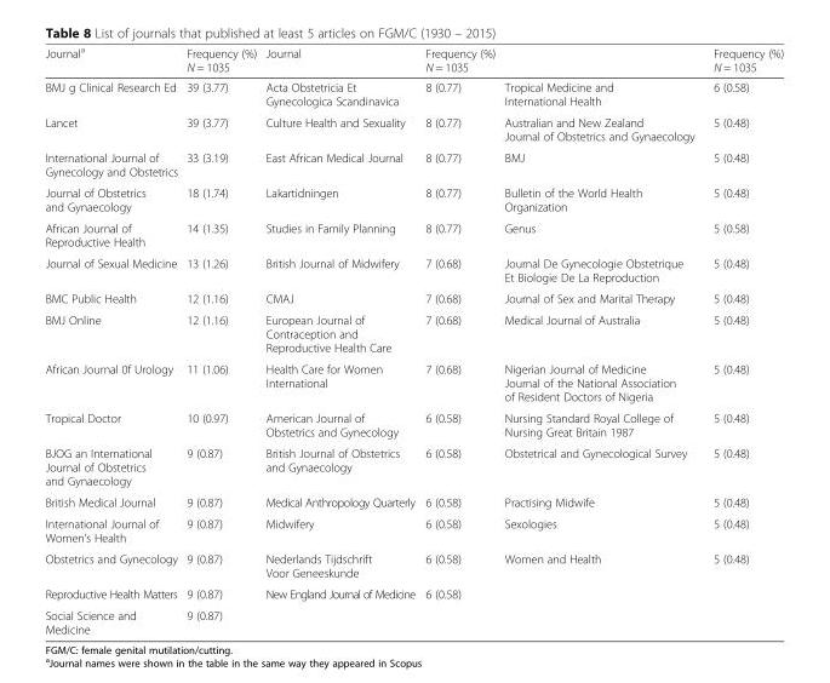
<table><thead><tr><td>Journal<sup>a</sup></td><td>Frequency (%) N = 1035</td><td>Journal</td><td>Frequency (%) N = 1035</td><td></td><td>Frequency (%) N = 1035</td></tr></thead><tbody><tr><td>BMJ g Clinical Research Ed</td><td>39 (3.77)</td><td>Acta Obstetricia Et Gynecologica Scandinavica</td><td>8 (0.77)</td><td>Tropical Medicine and International Health</td><td>6 (0.58)</td></tr><tr><td>Lancet</td><td>39 (3.77)</td><td>Culture Health and Sexuality</td><td>8 (0.77)</td><td>Australian and New Zealand Journal of Obstetrics and Gynaecology</td><td>5 (0.48)</td></tr><tr><td>International Journal of Gynecology and Obstetrics</td><td>33 (3.19)</td><td>East African Medical Journal</td><td>8 (0.77)</td><td>BMJ</td><td>5 (0.48)</td></tr><tr><td>Journal of Obstetrics and Gynaecology</td><td>18 (1.74)</td><td>Lakartidningen</td><td>8 (0.77)</td><td>Bulletin of the World Health Organization</td><td>5 (0.48)</td></tr><tr><td>African Journal of Reproductive Health</td><td>14 (1.35)</td><td>Studies in Family Planning</td><td>8 (0.77)</td><td>Genus</td><td>5 (0.58)</td></tr><tr><td>Journal of Sexual Medicine</td><td>13 (1.26)</td><td>British Journal of Midwifery</td><td>7 (0.68)</td><td>Journal De Gynecologie Obstetrique Et Biologie De La Reproduction</td><td>5 (0.48)</td></tr><tr><td>BMC Public Health</td><td>12 (1.16)</td><td>CMAJ</td><td>7 (0.68)</td><td>Journal of Sex and Marital Therapy</td><td>5 (0.48)</td></tr><tr><td>BMJ Online</td><td>12 (1.16)</td><td>European Journal of Contraception and Reproductive Health Care</td><td>7 (0.68)</td><td>Medical Journal of Australia</td><td>5 (0.48)</td></tr><tr><td>African Journal 0f Urology</td><td>11 (1.06)</td><td>Health Care for Women International</td><td>7 (0.68)</td><td>Nigerian Journal of Medicine Journal of the National Association of Resident Doctors of Nigeria</td><td>5 (0.48)</td></tr><tr><td>Tropical Doctor</td><td>10 (0.97)</td><td>American Journal of Obstetrics and Gynecology</td><td>6 (0.58)</td><td>Nursing Standard Royal College of Nursing Great Britain 1987</td><td>5 (0.48)</td></tr><tr><td>BJOG an International Journal of Obstetrics and Gynaecology</td><td>9 (0.87)</td><td>British Journal of Obstetrics and Gynaecology</td><td>6 (0.58)</td><td>Obstetrical and Gynecological Survey</td><td>5 (0.48)</td></tr><tr><td>British Medical Journal</td><td>9 (0.87)</td><td>Medical Anthropology Quarterly</td><td>6 (0.58)</td><td>Practising Midwife</td><td>5 (0.48)</td></tr><tr><td>International Journal of Women’s Health</td><td>9 (0.87)</td><td>Midwifery</td><td>6 (0.58)</td><td>Sexologies</td><td>5 (0.48)</td></tr><tr><td>Obstetrics and Gynecology</td><td>9 (0.87)</td><td>Nederlands Tijdschrift Voor Geneeskunde</td><td>6 (0.58)</td><td>Women and Health</td><td>5 (0.48)</td></tr><tr><td>Reproductive Health Matters</td><td>9 (0.87)</td><td>New England Journal of Medicine</td><td>6 (0.58)</td><td></td><td></td></tr><tr><td>Social Science and Medicine</td><td>9 (0.87)</td><td></td><td></td><td></td><td></td></tr></tbody></table>